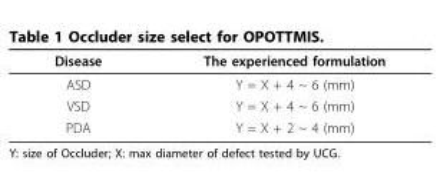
<table><thead><tr><td>Disease</td><td>The experienced formulation</td></tr></thead><tbody><tr><td>ASD</td><td>Y = X + 4 ~ 6 (mm)</td></tr><tr><td>VSD</td><td>Y = X + 4 ~ 6 (mm)</td></tr><tr><td>PDA</td><td>Y = X + 2 ~ 4 (mm)</td></tr></tbody></table>